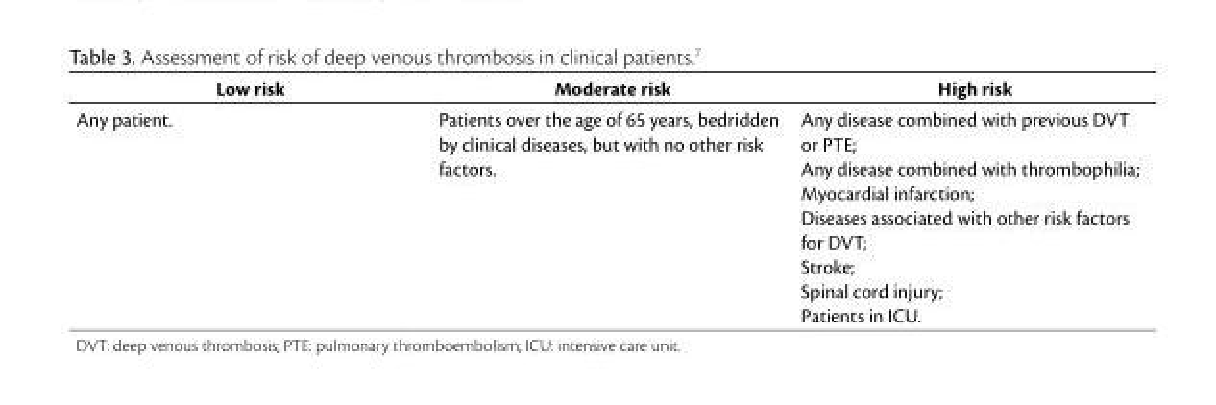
<table><thead><tr><td>Low risk</td><td>Moderate risk</td><td>High risk</td></tr></thead><tbody><tr><td>Any patient.</td><td>Patients over the age of 65 years, bedridden by clinical diseases, but with no other risk factors.</td><td>Any disease combined with previous DVT or PTE; Any disease combined with thrombophilia; Myocardial infarction; Diseases associated with other risk factors for DVT; Stroke; Spinal cord injury; Patients in ICU.</td></tr></tbody></table>